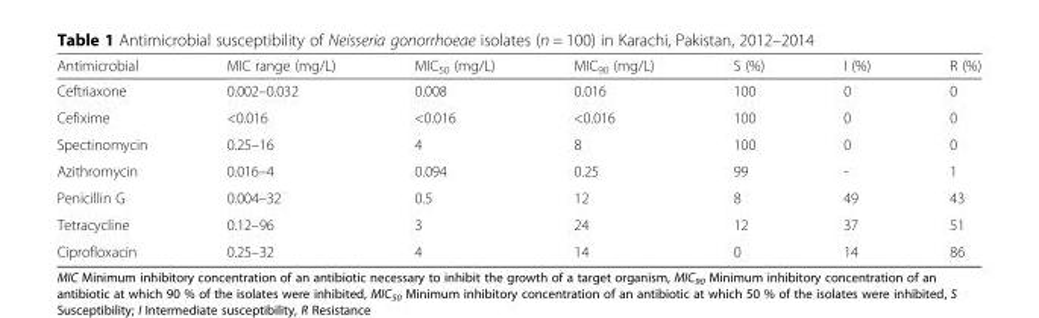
<table><thead><tr><td>Antimicrobial</td><td>MIC range (mg/L)</td><td>MIC<sub>50</sub> (mg/L)</td><td>MIC<sub>90</sub> (mg/L)</td><td>S (%)</td><td>I (%)</td><td>R (%)</td></tr></thead><tbody><tr><td>Ceftriaxone</td><td>0.002–0.032</td><td>0.008</td><td>0.016</td><td>100</td><td>0</td><td>0</td></tr><tr><td>Cefixime</td><td>&lt;0.016</td><td>&lt;0.016</td><td>&lt;0.016</td><td>100</td><td>0</td><td>0</td></tr><tr><td>Spectinomycin</td><td>0.25–16</td><td>4</td><td>8</td><td>100</td><td>0</td><td>0</td></tr><tr><td>Azithromycin</td><td>0.016–4</td><td>0.094</td><td>0.25</td><td>99</td><td>-</td><td>1</td></tr><tr><td>Penicillin G</td><td>0.004–32</td><td>0.5</td><td>12</td><td>8</td><td>49</td><td>43</td></tr><tr><td>Tetracycline</td><td>0.12–96</td><td>3</td><td>24</td><td>12</td><td>37</td><td>51</td></tr><tr><td>Ciprofloxacin</td><td>0.25–32</td><td>4</td><td>14</td><td>0</td><td>14</td><td>86</td></tr></tbody></table>